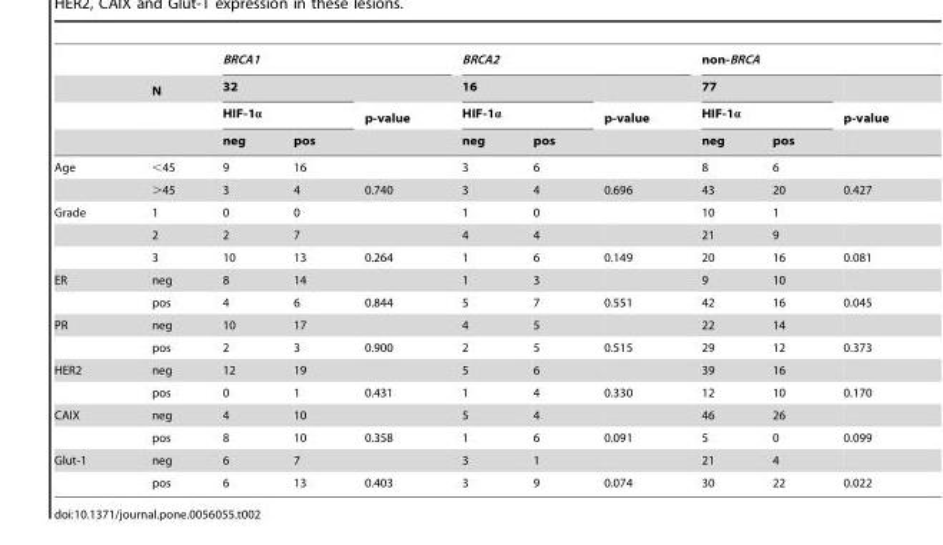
<table><thead><tr><td rowspan="4"></td><td rowspan="4">N</td><td colspan="3">BRCA1</td><td colspan="3">BRCA2</td><td colspan="3">non-BRCA</td></tr><tr><td rowspan="2" colspan="2">32 HIF-1α</td><td rowspan="3">p-value</td><td rowspan="2" colspan="2">16 HIF-1α</td><td rowspan="3">p-value</td><td rowspan="2" colspan="2">77 HIF-1α</td><td rowspan="3">p-value</td></tr><tr></tr><tr><td>neg</td><td>pos</td><td>neg</td><td>pos</td><td>neg</td><td>pos</td></tr></thead><tbody><tr><td rowspan="2">Age</td><td>&lt;45</td><td>9</td><td>16</td><td></td><td>3</td><td>6</td><td></td><td>8</td><td>6</td><td></td></tr><tr><td>&gt;45</td><td>3</td><td>4</td><td>0.740</td><td>3</td><td>4</td><td>0.696</td><td>43</td><td>20</td><td>0.427</td></tr><tr><td rowspan="3">Grade</td><td>1</td><td>0</td><td>0</td><td></td><td>1</td><td>0</td><td></td><td>10</td><td>1</td><td></td></tr><tr><td>2</td><td>2</td><td>7</td><td></td><td>4</td><td>4</td><td></td><td>21</td><td>9</td><td></td></tr><tr><td>3</td><td>10</td><td>13</td><td>0.264</td><td>1</td><td>6</td><td>0.149</td><td>20</td><td>16</td><td>0.081</td></tr><tr><td rowspan="2">ER</td><td>neg</td><td>8</td><td>14</td><td></td><td>1</td><td>3</td><td></td><td>9</td><td>10</td><td></td></tr><tr><td>pos</td><td>4</td><td>6</td><td>0.844</td><td>5</td><td>7</td><td>0.551</td><td>42</td><td>16</td><td>0.045</td></tr><tr><td rowspan="2">PR</td><td>neg</td><td>10</td><td>17</td><td></td><td>4</td><td>5</td><td></td><td>22</td><td>14</td><td></td></tr><tr><td>pos</td><td>2</td><td>3</td><td>0.900</td><td>2</td><td>5</td><td>0.515</td><td>29</td><td>12</td><td>0.373</td></tr><tr><td rowspan="2">HER2</td><td>neg</td><td>12</td><td>19</td><td></td><td>5</td><td>6</td><td></td><td>39</td><td>16</td><td></td></tr><tr><td>pos</td><td>0</td><td>1</td><td>0.431</td><td>1</td><td>4</td><td>0.330</td><td>12</td><td>10</td><td>0.170</td></tr><tr><td rowspan="2">CAIX</td><td>neg</td><td>4</td><td>10</td><td></td><td>5</td><td>4</td><td></td><td>46</td><td>26</td><td></td></tr><tr><td>pos</td><td>8</td><td>10</td><td>0.358</td><td>1</td><td>6</td><td>0.091</td><td>5</td><td>0</td><td>0.099</td></tr><tr><td rowspan="2">Glut-1</td><td>neg</td><td>6</td><td>7</td><td></td><td>3</td><td>1</td><td></td><td>21</td><td>4</td><td></td></tr><tr><td>pos</td><td>6</td><td>13</td><td>0.403</td><td>3</td><td>9</td><td>0.074</td><td>30</td><td>22</td><td>0.022</td></tr></tbody></table>